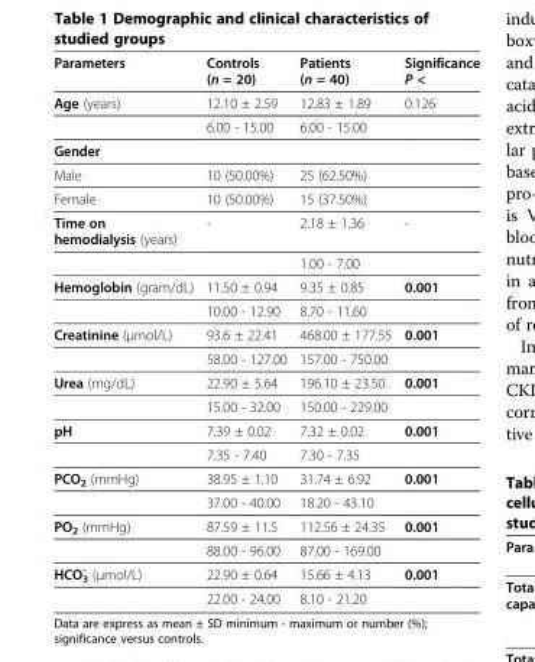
<table><thead><tr><td>Parameters</td><td>Controls (n = 20)</td><td>Patients (n = 40)</td><td>Significance P &lt;</td></tr></thead><tbody><tr><td rowspan="2">Age (years)</td><td>12.10 ± 2.59</td><td>12.83 ± 1.89</td><td>0.126</td></tr><tr><td>6.00 - 15.00</td><td>6.00 - 15.00</td><td></td></tr><tr><td colspan="4">Gender</td></tr><tr><td>Male</td><td>10 (50.00%)</td><td>25 (62.50%)</td><td></td></tr><tr><td>Female</td><td>10 (50.00%)</td><td>15 (37.50%)</td><td></td></tr><tr><td rowspan="2">Time on hemodialysis (years)</td><td>-</td><td>2.18 ± 1.36</td><td>-</td></tr><tr><td></td><td>1.00 - 7.00</td><td></td></tr><tr><td rowspan="2">Hemoglobin (gram/dL)</td><td>11.50 ± 0.94</td><td>9.35 ± 0.85</td><td>0.001</td></tr><tr><td>10.00 - 12.90</td><td>8.70 - 11.60</td><td></td></tr><tr><td rowspan="2">Creatinine (μmol/L)</td><td>93.6 ± 22.41</td><td>468.00 ± 177.55</td><td>0.001</td></tr><tr><td>58.00 - 127.00</td><td>157.00 - 750.00</td><td></td></tr><tr><td rowspan="2">Urea (mg/dL)</td><td>22.90 ± 5.64</td><td>196.10 ± 23.50</td><td>0.001</td></tr><tr><td>15.00 - 32.00</td><td>150.00 - 229.00</td><td></td></tr><tr><td rowspan="2">pH</td><td>7.39 ± 0.02</td><td>7.32 ± 0.02</td><td>0.001</td></tr><tr><td>7.35 - 7.40</td><td>7.30 - 7.35</td><td></td></tr><tr><td rowspan="2">PCO<sub>2</sub> (mmHg)</td><td>38.95 ± 1.10</td><td>31.74 ± 6.92</td><td>0.001</td></tr><tr><td>37.00 - 40.00</td><td>18.20 - 43.10</td><td></td></tr><tr><td rowspan="2">PO<sub>2</sub> (mmHg)</td><td>87.59 ± 11.5</td><td>112.56 ± 24.35</td><td>0.001</td></tr><tr><td>88.00 - 96.00</td><td>87.00 - 169.00</td><td></td></tr><tr><td rowspan="2">HCO<sub>3</sub> <sup>-</sup> (μmol/L)</td><td>22.90 ± 0.64</td><td>15.66 ± 4.13</td><td>0.001</td></tr><tr><td>22.00 - 24.00</td><td>8.10 - 21.20</td><td></td></tr></tbody></table>